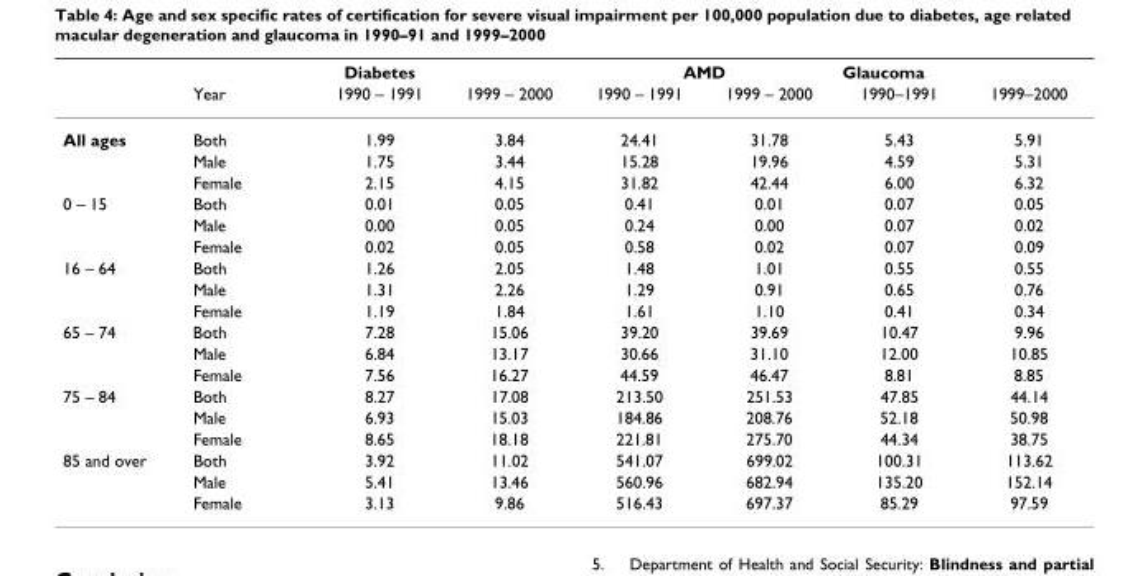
<table><thead><tr><td rowspan="2"></td><td colspan="3">Diabetes</td><td colspan="2">AMD</td><td colspan="2">Glaucoma</td></tr><tr><td>Year</td><td>1990 – 1991</td><td>1999 – 2000</td><td>1990 – 1991</td><td>1999 – 2000</td><td>1990–1991</td><td>1999–2000</td></tr></thead><tbody><tr><td rowspan="3">All ages</td><td>Both</td><td>1.99</td><td>3.84</td><td>24.41</td><td>31.78</td><td>5.43</td><td>5.91</td></tr><tr><td>Male</td><td>1.75</td><td>3.44</td><td>15.28</td><td>19.96</td><td>4.59</td><td>5.31</td></tr><tr><td>Female</td><td>2.15</td><td>4.15</td><td>31.82</td><td>42.44</td><td>6.00</td><td>6.32</td></tr><tr><td rowspan="3">0 – 15</td><td>Both</td><td>0.01</td><td>0.05</td><td>0.41</td><td>0.01</td><td>0.07</td><td>0.05</td></tr><tr><td>Male</td><td>0.00</td><td>0.05</td><td>0.24</td><td>0.00</td><td>0.07</td><td>0.02</td></tr><tr><td>Female</td><td>0.02</td><td>0.05</td><td>0.58</td><td>0.02</td><td>0.07</td><td>0.09</td></tr><tr><td rowspan="3">16 – 64</td><td>Both</td><td>1.26</td><td>2.05</td><td>1.48</td><td>1.01</td><td>0.55</td><td>0.55</td></tr><tr><td>Male</td><td>1.31</td><td>2.26</td><td>1.29</td><td>0.91</td><td>0.65</td><td>0.76</td></tr><tr><td>Female</td><td>1.19</td><td>1.84</td><td>1.61</td><td>1.10</td><td>0.41</td><td>0.34</td></tr><tr><td rowspan="3">65 – 74</td><td>Both</td><td>7.28</td><td>15.06</td><td>39.20</td><td>39.69</td><td>10.47</td><td>9.96</td></tr><tr><td>Male</td><td>6.84</td><td>13.17</td><td>30.66</td><td>31.10</td><td>12.00</td><td>10.85</td></tr><tr><td>Female</td><td>7.56</td><td>16.27</td><td>44.59</td><td>46.47</td><td>8.81</td><td>8.85</td></tr><tr><td rowspan="3">75 – 84</td><td>Both</td><td>8.27</td><td>17.08</td><td>213.50</td><td>251.53</td><td>47.85</td><td>44.14</td></tr><tr><td>Male</td><td>6.93</td><td>15.03</td><td>184.86</td><td>208.76</td><td>52.18</td><td>50.98</td></tr><tr><td>Female</td><td>8.65</td><td>18.18</td><td>221.81</td><td>275.70</td><td>44.34</td><td>38.75</td></tr><tr><td rowspan="3">85 and over</td><td>Both</td><td>3.92</td><td>11.02</td><td>541.07</td><td>699.02</td><td>100.31</td><td>113.62</td></tr><tr><td>Male</td><td>5.41</td><td>13.46</td><td>560.96</td><td>682.94</td><td>135.20</td><td>152.14</td></tr><tr><td>Female</td><td>3.13</td><td>9.86</td><td>516.43</td><td>697.37</td><td>85.29</td><td>97.59</td></tr></tbody></table>